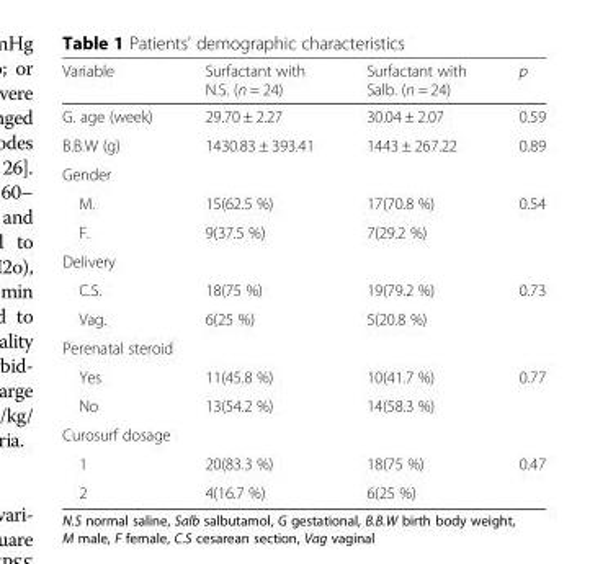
<table><thead><tr><td>Variable</td><td>Surfactant with N.S. (n = 24)</td><td>Surfactant with Salb. (n = 24)</td><td>p</td></tr></thead><tbody><tr><td>G. age (week)</td><td>29.70 ± 2.27</td><td>30.04 ± 2.07</td><td>0.59</td></tr><tr><td>B.B.W (g)</td><td>1430.83 ± 393.41</td><td>1443 ± 267.22</td><td>0.89</td></tr><tr><td colspan="4">Gender</td></tr><tr><td>M.</td><td>15(62.5 %)</td><td>17(70.8 %)</td><td rowspan="2">0.54</td></tr><tr><td>F.</td><td>9(37.5 %)</td><td>7(29.2 %)</td></tr><tr><td colspan="4">Delivery</td></tr><tr><td>C.S.</td><td>18(75 %)</td><td>19(79.2 %)</td><td rowspan="2">0.73</td></tr><tr><td>Vag.</td><td>6(25 %)</td><td>5(20.8 %)</td></tr><tr><td colspan="4">Perenatal steroid</td></tr><tr><td>Yes</td><td>11(45.8 %)</td><td>10(41.7 %)</td><td rowspan="2">0.77</td></tr><tr><td>No</td><td>13(54.2 %)</td><td>14(58.3 %)</td></tr><tr><td colspan="4">Curosurf dosage</td></tr><tr><td>1</td><td>20(83.3 %)</td><td>18(75 %)</td><td rowspan="2">0.47</td></tr><tr><td>2</td><td>4(16.7 %)</td><td>6(25 %)</td></tr></tbody></table>